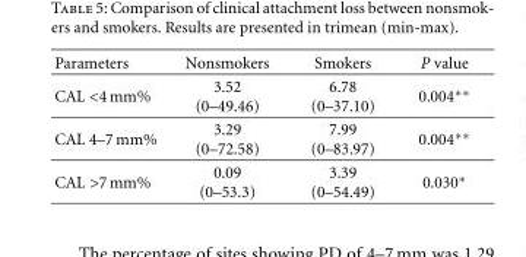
<table><thead><tr><td>Parameters</td><td>Nonsmokers</td><td>Smokers</td><td>P value</td></tr></thead><tbody><tr><td>CAL &lt;4 mm%</td><td>3.52 (0–49.46)</td><td>6.78 (0–37.10)</td><td>0.004∗∗</td></tr><tr><td>CAL 4–7 mm%</td><td>3.29 (0–72.58)</td><td>7.99 (0–83.97)</td><td>0.004∗∗</td></tr><tr><td>CAL &gt;7 mm%</td><td>0.09 (0–53.3)</td><td>3.39 (0–54.49)</td><td>0.030∗</td></tr></tbody></table>